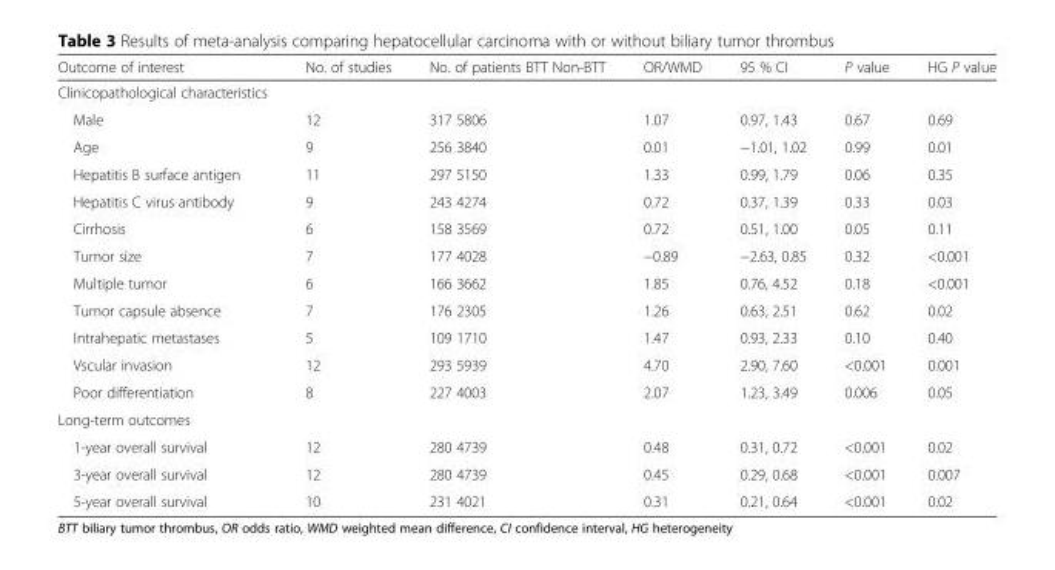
<table><thead><tr><td>Outcome of interest</td><td>No. of studies</td><td>No. of patients BTT Non-BTT</td><td>OR/WMD</td><td>95 % CI</td><td>P value</td><td>HG P value</td></tr></thead><tbody><tr><td colspan="7">Clinicopathological characteristics</td></tr><tr><td>Male</td><td>12</td><td>317 5806</td><td>1.07</td><td>0.97, 1.43</td><td>0.67</td><td>0.69</td></tr><tr><td>Age</td><td>9</td><td>256 3840</td><td>0.01</td><td>−1.01, 1.02</td><td>0.99</td><td>0.01</td></tr><tr><td>Hepatitis B surface antigen</td><td>11</td><td>297 5150</td><td>1.33</td><td>0.99, 1.79</td><td>0.06</td><td>0.35</td></tr><tr><td>Hepatitis C virus antibody</td><td>9</td><td>243 4274</td><td>0.72</td><td>0.37, 1.39</td><td>0.33</td><td>0.03</td></tr><tr><td>Cirrhosis</td><td>6</td><td>158 3569</td><td>0.72</td><td>0.51, 1.00</td><td>0.05</td><td>0.11</td></tr><tr><td>Tumor size</td><td>7</td><td>177 4028</td><td>−0.89</td><td>−2.63, 0.85</td><td>0.32</td><td>&lt;0.001</td></tr><tr><td>Multiple tumor</td><td>6</td><td>166 3662</td><td>1.85</td><td>0.76, 4.52</td><td>0.18</td><td>&lt;0.001</td></tr><tr><td>Tumor capsule absence</td><td>7</td><td>176 2305</td><td>1.26</td><td>0.63, 2.51</td><td>0.62</td><td>0.02</td></tr><tr><td>Intrahepatic metastases</td><td>5</td><td>109 1710</td><td>1.47</td><td>0.93, 2.33</td><td>0.10</td><td>0.40</td></tr><tr><td>Vscular invasion</td><td>12</td><td>293 5939</td><td>4.70</td><td>2.90, 7.60</td><td>&lt;0.001</td><td>0.001</td></tr><tr><td>Poor differentiation</td><td>8</td><td>227 4003</td><td>2.07</td><td>1.23, 3.49</td><td>0.006</td><td>0.05</td></tr><tr><td colspan="7">Long-term outcomes</td></tr><tr><td>1-year overall survival</td><td>12</td><td>280 4739</td><td>0.48</td><td>0.31, 0.72</td><td>&lt;0.001</td><td>0.02</td></tr><tr><td>3-year overall survival</td><td>12</td><td>280 4739</td><td>0.45</td><td>0.29, 0.68</td><td>&lt;0.001</td><td>0.007</td></tr><tr><td>5-year overall survival</td><td>10</td><td>231 4021</td><td>0.31</td><td>0.21, 0.64</td><td>&lt;0.001</td><td>0.02</td></tr></tbody></table>